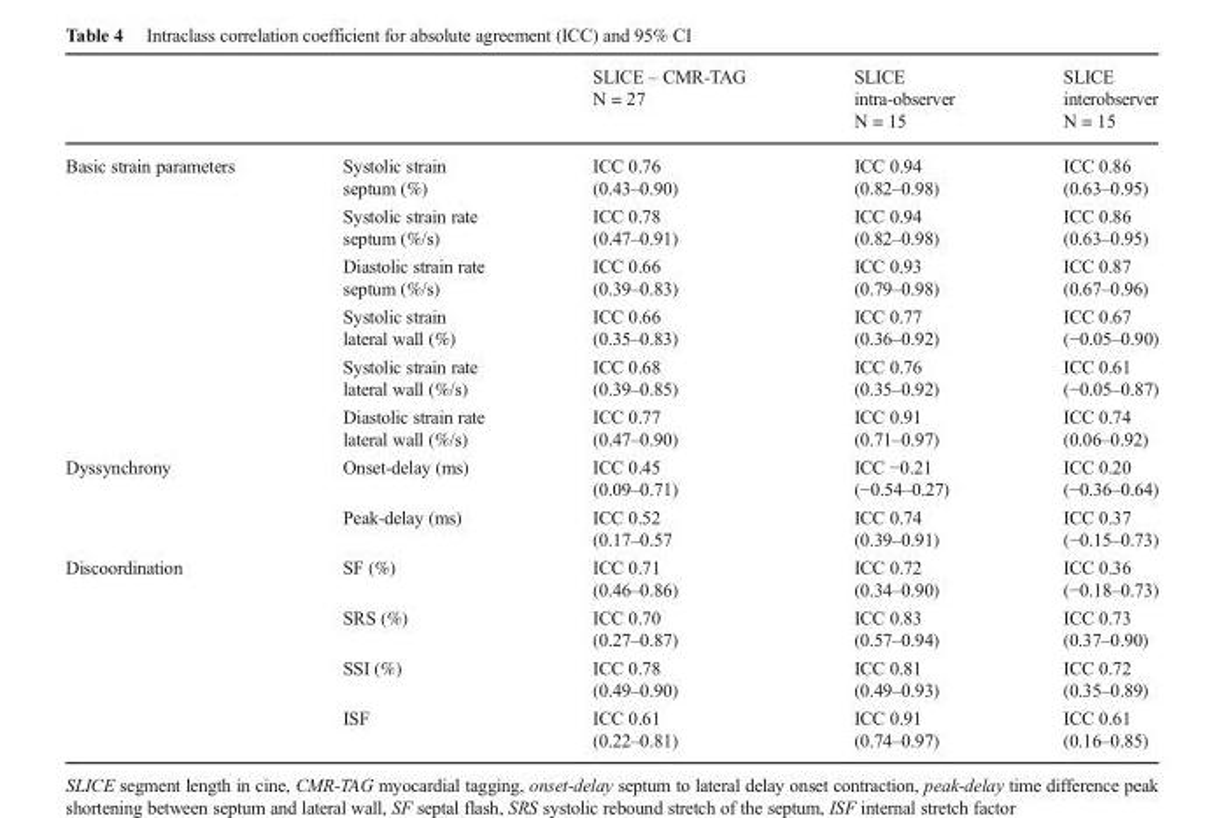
<table><thead><tr><td></td><td></td><td>SLICE – CMR-TAG N = 27</td><td>SLICE intra-observer N = 15</td><td>SLICE interobserver N = 15</td></tr></thead><tbody><tr><td rowspan="6">Basic strain parameters</td><td>Systolic strain septum (%)</td><td>ICC 0.76 (0.43–0.90)</td><td>ICC 0.94 (0.82–0.98)</td><td>ICC 0.86 (0.63–0.95)</td></tr><tr><td>Systolic strain rate septum (%/s)</td><td>ICC 0.78 (0.47–0.91)</td><td>ICC 0.94 (0.82–0.98)</td><td>ICC 0.86 (0.63–0.95)</td></tr><tr><td>Diastolic strain rate septum (%/s)</td><td>ICC 0.66 (0.39–0.83)</td><td>ICC 0.93 (0.79–0.98)</td><td>ICC 0.87 (0.67–0.96)</td></tr><tr><td>Systolic strain lateral wall (%)</td><td>ICC 0.66 (0.35–0.83)</td><td>ICC 0.77 (0.36–0.92)</td><td>ICC 0.67 (−0.05–0.90)</td></tr><tr><td>Systolic strain rate lateral wall (%/s)</td><td>ICC 0.68 (0.39–0.85)</td><td>ICC 0.76 (0.35–0.92)</td><td>ICC 0.61 (−0.05–0.87)</td></tr><tr><td>Diastolic strain rate lateral wall (%/s)</td><td>ICC 0.77 (0.47–0.90)</td><td>ICC 0.91 (0.71–0.97)</td><td>ICC 0.74 (0.06–0.92)</td></tr><tr><td rowspan="2">Dyssynchrony</td><td>Onset-delay (ms)</td><td>ICC 0.45 (0.09–0.71)</td><td>ICC −0.21 (−0.54–0.27)</td><td>ICC 0.20 (−0.36–0.64)</td></tr><tr><td>Peak-delay (ms)</td><td>ICC 0.52 (0.17–0.57</td><td>ICC 0.74 (0.39–0.91)</td><td>ICC 0.37 (−0.15–0.73)</td></tr><tr><td rowspan="4">Discoordination</td><td>SF (%)</td><td>ICC 0.71 (0.46–0.86)</td><td>ICC 0.72 (0.34–0.90)</td><td>ICC 0.36 (−0.18–0.73)</td></tr><tr><td>SRS (%)</td><td>ICC 0.70 (0.27–0.87)</td><td>ICC 0.83 (0.57–0.94)</td><td>ICC 0.73 (0.37–0.90)</td></tr><tr><td>SSI (%)</td><td>ICC 0.78 (0.49–0.90)</td><td>ICC 0.81 (0.49–0.93)</td><td>ICC 0.72 (0.35–0.89)</td></tr><tr><td>ISF</td><td>ICC 0.61 (0.22–0.81)</td><td>ICC 0.91 (0.74–0.97)</td><td>ICC 0.61 (0.16–0.85)</td></tr></tbody></table>